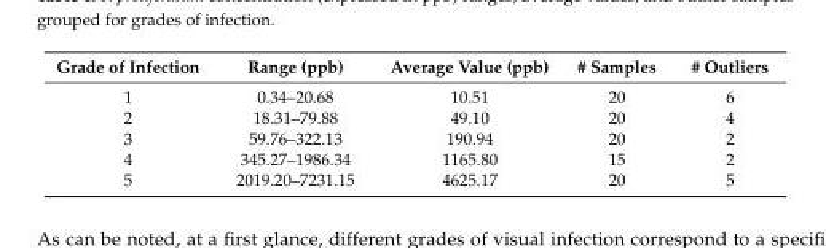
<table><thead><tr><td>Grade of Infection</td><td>Range (ppb)</td><td>Average Value (ppb)</td><td># Samples</td><td># Outliers</td></tr></thead><tbody><tr><td>1</td><td>0.34–20.68</td><td>10.51</td><td>20</td><td>6</td></tr><tr><td>2</td><td>18.31–79.88</td><td>49.10</td><td>20</td><td>4</td></tr><tr><td>3</td><td>59.76–322.13</td><td>190.94</td><td>20</td><td>2</td></tr><tr><td>4</td><td>345.27–1986.34</td><td>1165.80</td><td>15</td><td>2</td></tr><tr><td>5</td><td>2019.20–7231.15</td><td>4625.17</td><td>20</td><td>5</td></tr></tbody></table>